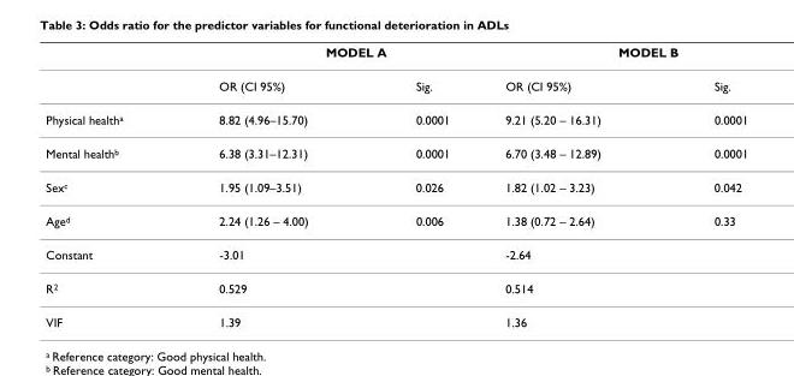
<table><thead><tr><td rowspan="2"></td><td colspan="2">MODEL A</td><td colspan="2">MODEL B</td></tr><tr><td>OR (CI 95%)</td><td>Sig.</td><td>OR (CI 95%)</td><td>Sig.</td></tr></thead><tbody><tr><td>Physical health<sup>a</sup></td><td>8.82 (4.96–15.70)</td><td>0.0001</td><td>9.21 (5.20 – 16.31)</td><td>0.0001</td></tr><tr><td>Mental health<sup>b</sup></td><td>6.38 (3.31–12.31)</td><td>0.0001</td><td>6.70 (3.48 – 12.89)</td><td>0.0001</td></tr><tr><td>Sex<sup>c</sup></td><td>1.95 (1.09–3.51)</td><td>0.026</td><td>1.82 (1.02 – 3.23)</td><td>0.042</td></tr><tr><td>Age<sup>d</sup></td><td>2.24 (1.26 – 4.00)</td><td>0.006</td><td>1.38 (0.72 – 2.64)</td><td>0.33</td></tr><tr><td>Constant</td><td>-3.01</td><td></td><td>-2.64</td><td></td></tr><tr><td>R<sup>2</sup></td><td>0.529</td><td></td><td>0.514</td><td></td></tr><tr><td>VIF</td><td>1.39</td><td></td><td>1.36</td><td></td></tr></tbody></table>